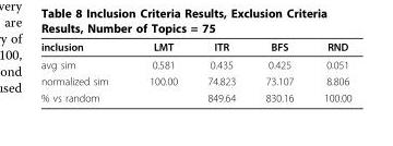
<table><thead><tr><td>inclusion</td><td>LMT</td><td>ITR</td><td>BFS</td><td>RND</td></tr></thead><tbody><tr><td>avg sim</td><td>0.581</td><td>0.435</td><td>0.425</td><td>0.051</td></tr><tr><td>normalized sim</td><td>100.00</td><td>74.823</td><td>73.107</td><td>8.806</td></tr><tr><td>% vs random</td><td></td><td>849.64</td><td>830.16</td><td>100.00</td></tr></tbody></table>